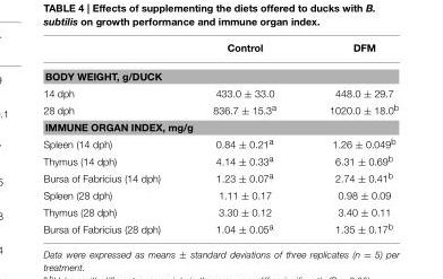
<table><thead><tr><td></td><td>Control</td><td>DFM</td></tr></thead><tbody><tr><td colspan="3">BODY WEIGHT, g/DUCK</td></tr><tr><td>14 dph</td><td>433.0 ± 33.0</td><td>448.0 ± 29.7</td></tr><tr><td>28 dph</td><td>836.7 ± 15.3<sup>a</sup></td><td>1020.0 ± 18.0<sup>b</sup></td></tr><tr><td colspan="3">IMMUNE ORGAN INDEX, mg/g</td></tr><tr><td>Spleen (14 dph)</td><td>0.84 ± 0.21<sup>a</sup></td><td>1.26 ± 0.049<sup>b</sup></td></tr><tr><td>Thymus (14 dph)</td><td>4.14 ± 0.33<sup>a</sup></td><td>6.31 ± 0.69<sup>b</sup></td></tr><tr><td>Bursa of Fabricius (14 dph)</td><td>1.23 ± 0.07<sup>a</sup></td><td>2.74 ± 0.41<sup>b</sup></td></tr><tr><td>Spleen (28 dph)</td><td>1.11 ± 0.17</td><td>0.98 ± 0.09</td></tr><tr><td>Thymus (28 dph)</td><td>3.30 ± 0.12</td><td>3.40 ± 0.11</td></tr><tr><td>Bursa of Fabricius (28 dph)</td><td>1.04 ± 0.05<sup>a</sup></td><td>1.35 ± 0.17<sup>b</sup></td></tr></tbody></table>